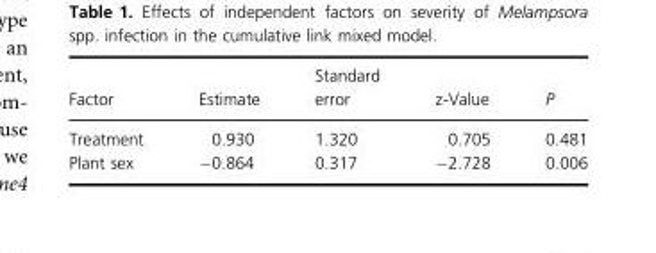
<table><thead><tr><td>Factor</td><td>Estimate</td><td>Standard error</td><td>z-Value</td><td>P</td></tr></thead><tbody><tr><td>Treatment</td><td>0.930</td><td>1.320</td><td>0.705</td><td>0.481</td></tr><tr><td>Plant sex</td><td>−0.864</td><td>0.317</td><td>−2.728</td><td>0.006</td></tr></tbody></table>